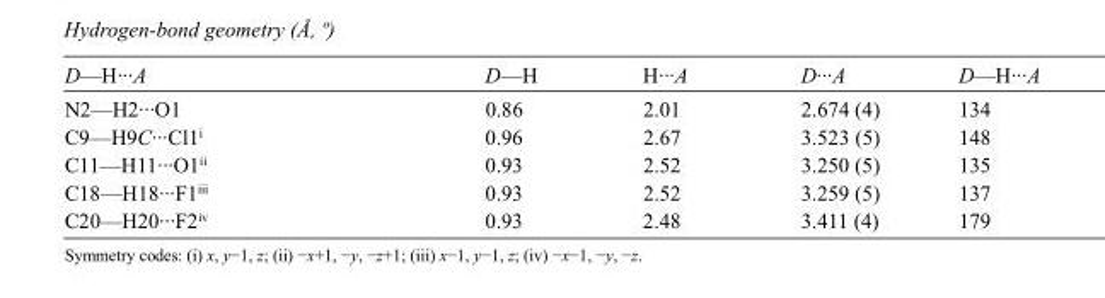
<table><tbody><tr><td>D—H···A</td><td>D—H</td><td>H···A</td><td>D···A</td><td>D—H···A</td></tr><tr><td>N2—H2···O1</td><td>0.86</td><td>2.01</td><td>2.674 (4)</td><td>134</td></tr><tr><td>C9—H9C···Cl1<sup>i</sup></td><td>0.96</td><td>2.67</td><td>3.523 (5)</td><td>148</td></tr><tr><td>C11—H11···O1<sup>ii</sup></td><td>0.93</td><td>2.52</td><td>3.250 (5)</td><td>135</td></tr><tr><td>C18—H18···F1<sup>iii</sup></td><td>0.93</td><td>2.52</td><td>3.259 (5)</td><td>137</td></tr><tr><td>C20—H20···F2<sup>iv</sup></td><td>0.93</td><td>2.48</td><td>3.411 (4)</td><td>179</td></tr></tbody></table>